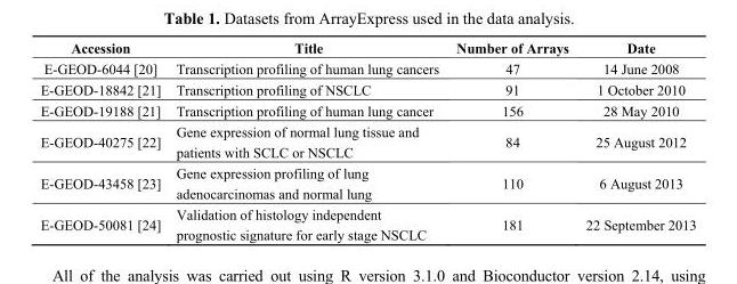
<table><thead><tr><td>Accession</td><td>Title</td><td>Number of Arrays</td><td>Date</td></tr></thead><tbody><tr><td>E-GEOD-6044 [20]</td><td>Transcription profiling of human lung cancers</td><td>47</td><td>14 June 2008</td></tr><tr><td>E-GEOD-18842 [21]</td><td>Transcription profiling of NSCLC</td><td>91</td><td>1 October 2010</td></tr><tr><td>E-GEOD-19188 [21]</td><td>Transcription profiling of human lung cancer</td><td>156</td><td>28 May 2010</td></tr><tr><td>E-GEOD-40275 [22]</td><td>Gene expression of normal lung tissue and patients with SCLC or NSCLC</td><td>84</td><td>25 August 2012</td></tr><tr><td>E-GEOD-43458 [23]</td><td>Gene expression profiling of lung adenocarcinomas and normal lung</td><td>110</td><td>6 August 2013</td></tr><tr><td>E-GEOD-50081 [24]</td><td>Validation of histology independent prognostic signature for early stage NSCLC</td><td>181</td><td>22 September 2013</td></tr></tbody></table>